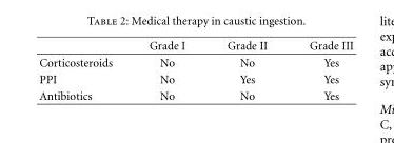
<table><thead><tr><td></td><td>Grade I</td><td>Grade II</td><td>Grade III</td></tr></thead><tbody><tr><td>Corticosteroids</td><td>No</td><td>No</td><td>Yes</td></tr><tr><td>PPI</td><td>No</td><td>Yes</td><td>Yes</td></tr><tr><td>Antibiotics</td><td>No</td><td>No</td><td>Yes</td></tr></tbody></table>